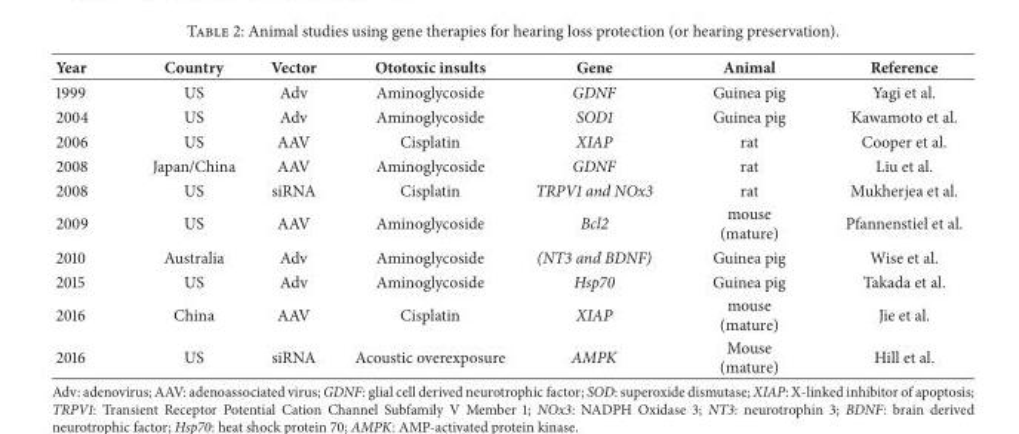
<table><thead><tr><td>Year</td><td>Country</td><td>Vector</td><td>Ototoxic insults</td><td>Gene</td><td>Animal</td><td>Reference</td></tr></thead><tbody><tr><td>1999</td><td>US</td><td>Adv</td><td>Aminoglycoside</td><td>GDNF</td><td>Guinea pig</td><td>Yagi et al.</td></tr><tr><td>2004</td><td>US</td><td>Adv</td><td>Aminoglycoside</td><td>SOD1</td><td>Guinea pig</td><td>Kawamoto et al.</td></tr><tr><td>2006</td><td>US</td><td>AAV</td><td>Cisplatin</td><td>XIAP</td><td>rat</td><td>Cooper et al.</td></tr><tr><td>2008</td><td>Japan/China</td><td>AAV</td><td>Aminoglycoside</td><td>GDNF</td><td>rat</td><td>Liu et al.</td></tr><tr><td>2008</td><td>US</td><td>siRNA</td><td>Cisplatin</td><td>TRPV1 and NOx3</td><td>rat</td><td>Mukherjea et al.</td></tr><tr><td>2009</td><td>US</td><td>AAV</td><td>Aminoglycoside</td><td>Bcl2</td><td>mouse (mature)</td><td>Pfannenstiel et al.</td></tr><tr><td>2010</td><td>Australia</td><td>Adv</td><td>Aminoglycoside</td><td>(NT3 and BDNF)</td><td>Guinea pig</td><td>Wise et al.</td></tr><tr><td>2015</td><td>US</td><td>Adv</td><td>Aminoglycoside</td><td>Hsp70</td><td>Guinea pig</td><td>Takada et al.</td></tr><tr><td>2016</td><td>China</td><td>AAV</td><td>Cisplatin</td><td>XIAP</td><td>mouse (mature)</td><td>Jie et al.</td></tr><tr><td>2016</td><td>US</td><td>siRNA</td><td>Acoustic overexposure</td><td>AMPK</td><td>Mouse (mature)</td><td>Hill et al.</td></tr></tbody></table>